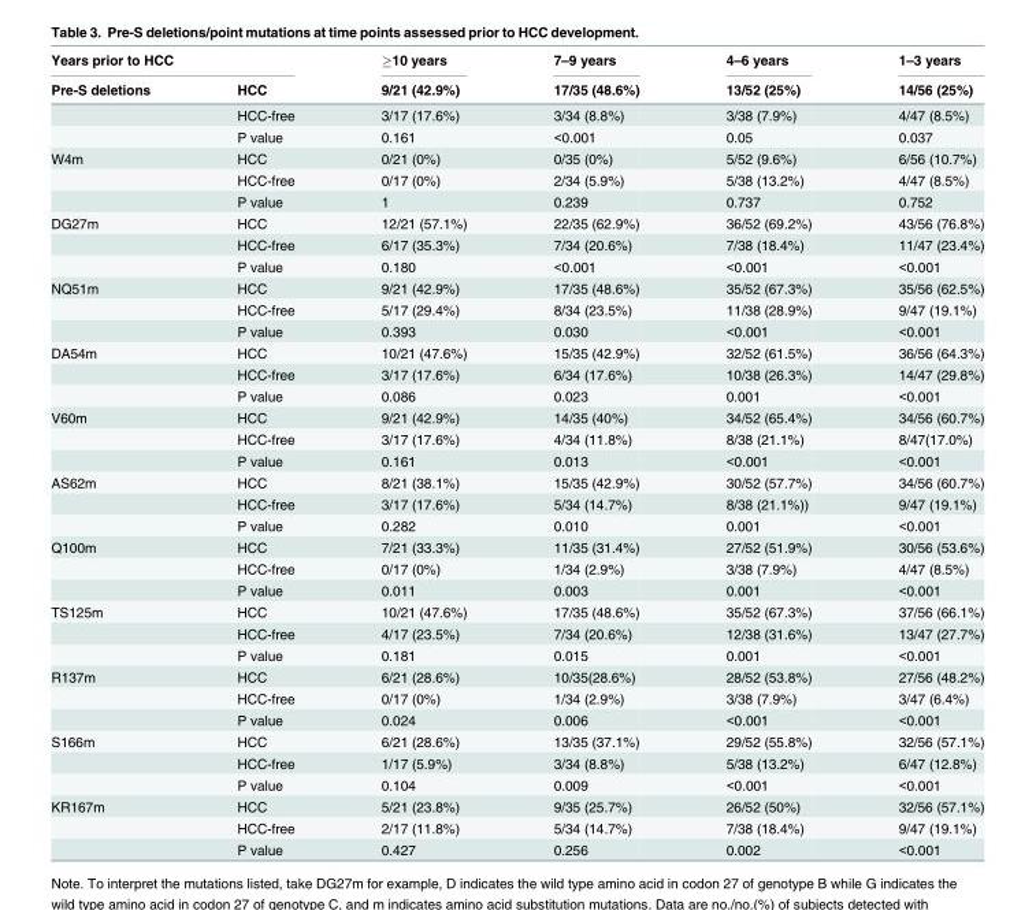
<table><thead><tr><td colspan="2">Years prior to HCC</td><td rowspan="2">≥10 years 9/21 (42.9%)</td><td rowspan="2">7–9 years 17/35 (48.6%)</td><td rowspan="2">4–6 years 13/52 (25%)</td><td rowspan="2">1–3 years 14/56 (25%)</td></tr><tr><td>Pre-S deletions</td><td>HCC</td></tr></thead><tbody><tr><td></td><td>HCC-free</td><td>3/17 (17.6%)</td><td>3/34 (8.8%)</td><td>3/38 (7.9%)</td><td>4/47 (8.5%)</td></tr><tr><td></td><td>P value</td><td>0.161</td><td>&lt;0.001</td><td>0.05</td><td>0.037</td></tr><tr><td rowspan="3">W4m</td><td>HCC</td><td>0/21 (0%)</td><td>0/35 (0%)</td><td>5/52 (9.6%)</td><td>6/56 (10.7%)</td></tr><tr><td>HCC-free</td><td>0/17 (0%)</td><td>2/34 (5.9%)</td><td>5/38 (13.2%)</td><td>4/47 (8.5%)</td></tr><tr><td>P value</td><td>1</td><td>0.239</td><td>0.737</td><td>0.752</td></tr><tr><td rowspan="3">DG27m</td><td>HCC</td><td>12/21 (57.1%)</td><td>22/35 (62.9%)</td><td>36/52 (69.2%)</td><td>43/56 (76.8%)</td></tr><tr><td>HCC-free</td><td>6/17 (35.3%)</td><td>7/34 (20.6%)</td><td>7/38 (18.4%)</td><td>11/47 (23.4%)</td></tr><tr><td>P value</td><td>0.180</td><td>&lt;0.001</td><td>&lt;0.001</td><td>&lt;0.001</td></tr><tr><td rowspan="3">NQ51m</td><td>HCC</td><td>9/21 (42.9%)</td><td>17/35 (48.6%)</td><td>35/52 (67.3%)</td><td>35/56 (62.5%)</td></tr><tr><td>HCC-free</td><td>5/17 (29.4%)</td><td>8/34 (23.5%)</td><td>11/38 (28.9%)</td><td>9/47 (19.1%)</td></tr><tr><td>P value</td><td>0.393</td><td>0.030</td><td>&lt;0.001</td><td>&lt;0.001</td></tr><tr><td rowspan="3">DA54m</td><td>HCC</td><td>10/21 (47.6%)</td><td>15/35 (42.9%)</td><td>32/52 (61.5%)</td><td>36/56 (64.3%)</td></tr><tr><td>HCC-free</td><td>3/17 (17.6%)</td><td>6/34 (17.6%)</td><td>10/38 (26.3%)</td><td>14/47 (29.8%)</td></tr><tr><td>P value</td><td>0.086</td><td>0.023</td><td>0.001</td><td>&lt;0.001</td></tr><tr><td rowspan="3">V60m</td><td>HCC</td><td>9/21 (42.9%)</td><td>14/35 (40%)</td><td>34/52 (65.4%)</td><td>34/56 (60.7%)</td></tr><tr><td>HCC-free</td><td>3/17 (17.6%)</td><td>4/34 (11.8%)</td><td>8/38 (21.1%)</td><td>8/47(17.0%)</td></tr><tr><td>P value</td><td>0.161</td><td>0.013</td><td>&lt;0.001</td><td>&lt;0.001</td></tr><tr><td rowspan="3">AS62m</td><td>HCC</td><td>8/21 (38.1%)</td><td>15/35 (42.9%)</td><td>30/52 (57.7%)</td><td>34/56 (60.7%)</td></tr><tr><td>HCC-free</td><td>3/17 (17.6%)</td><td>5/34 (14.7%)</td><td>8/38 (21.1%))</td><td>9/47 (19.1%)</td></tr><tr><td>P value</td><td>0.282</td><td>0.010</td><td>0.001</td><td>&lt;0.001</td></tr><tr><td rowspan="3">Q100m</td><td>HCC</td><td>7/21 (33.3%)</td><td>11/35 (31.4%)</td><td>27/52 (51.9%)</td><td>30/56 (53.6%)</td></tr><tr><td>HCC-free</td><td>0/17 (0%)</td><td>1/34 (2.9%)</td><td>3/38 (7.9%)</td><td>4/47 (8.5%)</td></tr><tr><td>P value</td><td>0.011</td><td>0.003</td><td>0.001</td><td>&lt;0.001</td></tr><tr><td rowspan="3">TS125m</td><td>HCC</td><td>10/21 (47.6%)</td><td>17/35 (48.6%)</td><td>35/52 (67.3%)</td><td>37/56 (66.1%)</td></tr><tr><td>HCC-free</td><td>4/17 (23.5%)</td><td>7/34 (20.6%)</td><td>12/38 (31.6%)</td><td>13/47 (27.7%)</td></tr><tr><td>P value</td><td>0.181</td><td>0.015</td><td>0.001</td><td>&lt;0.001</td></tr><tr><td rowspan="3">R137m</td><td>HCC</td><td>6/21 (28.6%)</td><td>10/35(28.6%)</td><td>28/52 (53.8%)</td><td>27/56 (48.2%)</td></tr><tr><td>HCC-free</td><td>0/17 (0%)</td><td>1/34 (2.9%)</td><td>3/38 (7.9%)</td><td>3/47 (6.4%)</td></tr><tr><td>P value</td><td>0.024</td><td>0.006</td><td>&lt;0.001</td><td>&lt;0.001</td></tr><tr><td rowspan="3">S166m</td><td>HCC</td><td>6/21 (28.6%)</td><td>13/35 (37.1%)</td><td>29/52 (55.8%)</td><td>32/56 (57.1%)</td></tr><tr><td>HCC-free</td><td>1/17 (5.9%)</td><td>3/34 (8.8%)</td><td>5/38 (13.2%)</td><td>6/47 (12.8%)</td></tr><tr><td>P value</td><td>0.104</td><td>0.009</td><td>&lt;0.001</td><td>&lt;0.001</td></tr><tr><td rowspan="3">KR167m</td><td>HCC</td><td>5/21 (23.8%)</td><td>9/35 (25.7%)</td><td>26/52 (50%)</td><td>32/56 (57.1%)</td></tr><tr><td>HCC-free</td><td>2/17 (11.8%)</td><td>5/34 (14.7%)</td><td>7/38 (18.4%)</td><td>9/47 (19.1%)</td></tr><tr><td>P value</td><td>0.427</td><td>0.256</td><td>0.002</td><td>&lt;0.001</td></tr></tbody></table>